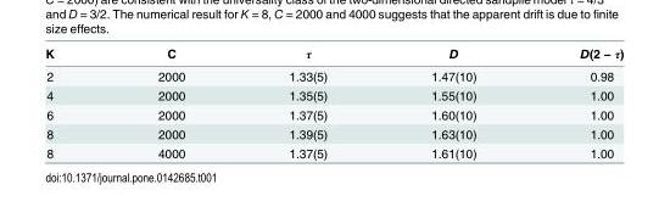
<table><thead><tr><td>K</td><td>C</td><td>τ</td><td>D</td><td>D(2 − τ)</td></tr></thead><tbody><tr><td>2</td><td>2000</td><td>1.33(5)</td><td>1.47(10)</td><td>0.98</td></tr><tr><td>4</td><td>2000</td><td>1.35(5)</td><td>1.55(10)</td><td>1.00</td></tr><tr><td>6</td><td>2000</td><td>1.37(5)</td><td>1.60(10)</td><td>1.00</td></tr><tr><td>8</td><td>2000</td><td>1.39(5)</td><td>1.63(10)</td><td>1.00</td></tr><tr><td>8</td><td>4000</td><td>1.37(5)</td><td>1.61(10)</td><td>1.00</td></tr></tbody></table>